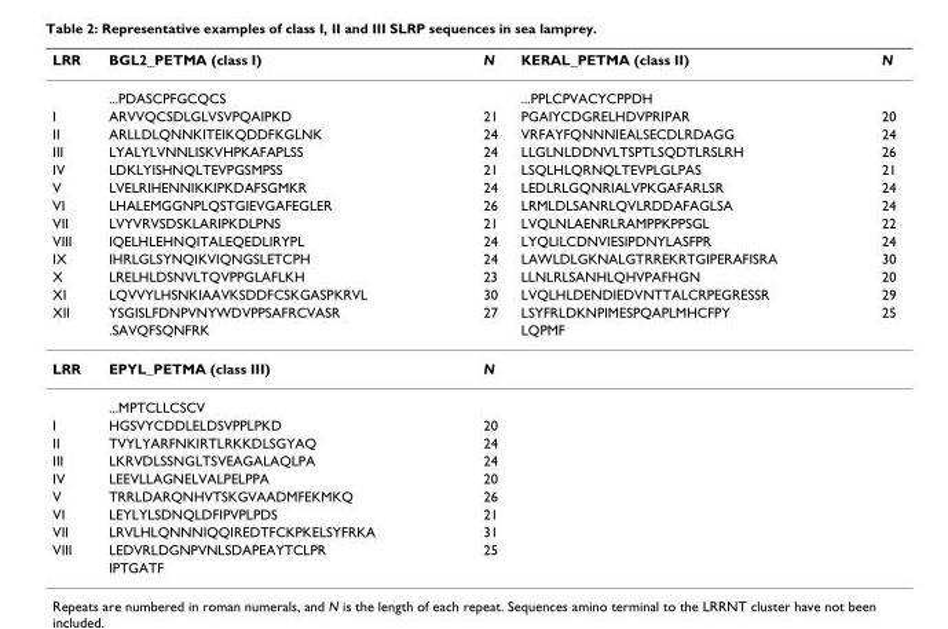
<table><thead><tr><td>LRR</td><td>BGL2_PETMA (class I)</td><td>N</td><td>KERAL_PETMA (class II)</td><td>N</td></tr></thead><tbody><tr><td></td><td>...PDASCPFGCQCS</td><td></td><td>...PPLCPVACYCPPDH</td><td></td></tr><tr><td>I</td><td>ARVVQCSDLGLVSVPQAIPKD</td><td>21</td><td>PGAIYCDGRELHDVPRIPAR</td><td>20</td></tr><tr><td>II</td><td>ARLLDLQNNKITEIKQDDFKGLNK</td><td>24</td><td>VRFAYFQNNNIEALSECDLRDAGG</td><td>24</td></tr><tr><td>III</td><td>LYALYLVNNLISKVHPKAFAPLSS</td><td>24</td><td>LLGLNLDDNVLTSPTLSQDTLRSLRH</td><td>26</td></tr><tr><td>IV</td><td>LDKLYISHNQLTEVPGSMPSS</td><td>21</td><td>LSQLHLQRNQLTEVPLGLPAS</td><td>21</td></tr><tr><td>V</td><td>LVELRIHENNIKKIPKDAFSGMKR</td><td>24</td><td>LEDLRLGQNRIALVPKGAFARLSR</td><td>24</td></tr><tr><td>VI</td><td>LHALEMGGNPLQSTGIEVGAFEGLER</td><td>26</td><td>LRMLDLSANRLQVLRDDAFAGLSA</td><td>24</td></tr><tr><td>VII</td><td>LVYVRVSDSKLARIPKDLPNS</td><td>21</td><td>LVQLNLAENRLRAMPPKPPSGL</td><td>22</td></tr><tr><td>VIII</td><td>IQELHLEHNQITALEQEDLIRYPL</td><td>24</td><td>LYQLILCDNVIESIPDNYLASFPR</td><td>24</td></tr><tr><td>IX</td><td>IHRLGLSYNQIKVIQNGSLETCPH</td><td>24</td><td>LAWLDLGKNALGTRREKRTGIPERAFISRA</td><td>30</td></tr><tr><td>X</td><td>LRELHLDSNVLTQVPPGLAFLKH</td><td>23</td><td>LLNLRLSANHLQHVPAFHGN</td><td>20</td></tr><tr><td>XI</td><td>LQVVYLHSNKIAAVKSDDFCSKGASPKRVL</td><td>30</td><td>LVQLHLDENDIEDVNTTALCRPEGRESSR</td><td>29</td></tr><tr><td rowspan="2">XII</td><td>YSGISLFDNPVNYWDVPPSAFRCVASR</td><td>27</td><td>LSYFRLDKNPIMESPQAPLMHCFPY</td><td>25</td></tr><tr><td>.SAVQFSQNFRK</td><td></td><td>LQPMF</td><td></td></tr><tr><td rowspan="2">LRR</td><td>EPYL_PETMA (class III)</td><td>N</td><td></td><td></td></tr><tr><td>...MPTCLLCSCV</td><td></td><td></td><td></td></tr><tr><td>I</td><td>HGSVYCDDLELDSVPPLPKD</td><td>20</td><td></td><td></td></tr><tr><td>II</td><td>TVYLYARFNKIRTLRKKDLSGYAQ</td><td>24</td><td></td><td></td></tr><tr><td>III</td><td>LKRVDLSSNGLTSVEAGALAQLPA</td><td>24</td><td></td><td></td></tr><tr><td>IV</td><td>LEEVLLAGNELVALPELPPA</td><td>20</td><td></td><td></td></tr><tr><td>V</td><td>TRRLDARQNHVTSKGVAADMFEKMKQ</td><td>26</td><td></td><td></td></tr><tr><td>VI</td><td>LEYLYLSDNQLDFIPVPLPDS</td><td>21</td><td></td><td></td></tr><tr><td>VII</td><td>LRVLHLQNNNIQQIREDTFCKPKELSYFRKA</td><td>31</td><td></td><td></td></tr><tr><td rowspan="2">VIII</td><td>LEDVRLDGNPVNLSDAPEAYTCLPR</td><td>25</td><td></td><td></td></tr><tr><td>IPTGATF</td><td></td><td></td><td></td></tr></tbody></table>